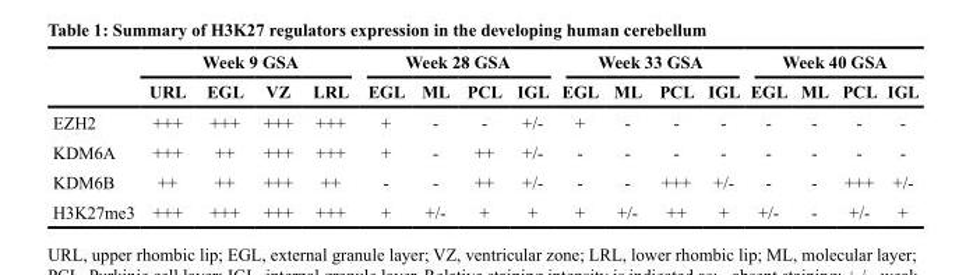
<table><thead><tr><td rowspan="2"></td><td colspan="4">Week 9 GSA</td><td colspan="4">Week 28 GSA</td><td colspan="4">Week 33 GSA</td><td colspan="4">Week 40 GSA</td></tr><tr><td>URL</td><td>EGL</td><td>VZ</td><td>LRL</td><td>EGL</td><td>ML</td><td>PCL</td><td>IGL</td><td>EGL</td><td>ML</td><td>PCL</td><td>IGL</td><td>EGL</td><td>ML</td><td>PCL</td><td>IGL</td></tr></thead><tbody><tr><td>EZH2</td><td>+++</td><td>+++</td><td>+++</td><td>+++</td><td>+</td><td>-</td><td>-</td><td>+/-</td><td>+</td><td>-</td><td>-</td><td>-</td><td>-</td><td>-</td><td>-</td><td>-</td></tr><tr><td>KDM6A</td><td>+++</td><td>++</td><td>+++</td><td>+++</td><td>+</td><td>-</td><td>++</td><td>+/-</td><td>-</td><td>-</td><td>-</td><td>-</td><td>-</td><td>-</td><td>-</td><td>-</td></tr><tr><td>KDM6B</td><td>++</td><td>++</td><td>+++</td><td>++</td><td>-</td><td>-</td><td>++</td><td>+/-</td><td>-</td><td>-</td><td>+++</td><td>+/-</td><td>-</td><td>-</td><td>+++</td><td>+/-</td></tr><tr><td>H3K27me3</td><td>+++</td><td>+++</td><td>+++</td><td>+++</td><td>+</td><td>+/-</td><td>+</td><td>+</td><td>+</td><td>+/-</td><td>++</td><td>+</td><td>+/-</td><td>-</td><td>+/-</td><td>+</td></tr></tbody></table>